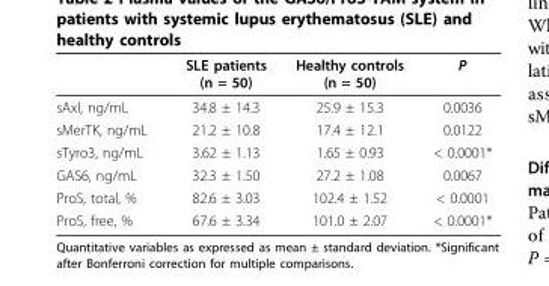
<table><thead><tr><td></td><td>SLE patients (n = 50)</td><td>Healthy controls (n = 50)</td><td>P</td></tr></thead><tbody><tr><td>sAxl, ng/mL</td><td>34.8 ± 14.3</td><td>25.9 ± 15.3</td><td>0.0036</td></tr><tr><td>sMerTK, ng/mL</td><td>21.2 ± 10.8</td><td>17.4 ± 12.1</td><td>0.0122</td></tr><tr><td>sTyro3, ng/mL</td><td>3.62 ± 1.13</td><td>1.65 ± 0.93</td><td>&lt; 0.0001*</td></tr><tr><td>GAS6, ng/mL</td><td>32.3 ± 1.50</td><td>27.2 ± 1.08</td><td>0.0067</td></tr><tr><td>ProS, total, %</td><td>82.6 ± 3.03</td><td>102.4 ± 1.52</td><td>&lt; 0.0001</td></tr><tr><td>ProS, free, %</td><td>67.6 ± 3.34</td><td>101.0 ± 2.07</td><td>&lt; 0.0001*</td></tr></tbody></table>